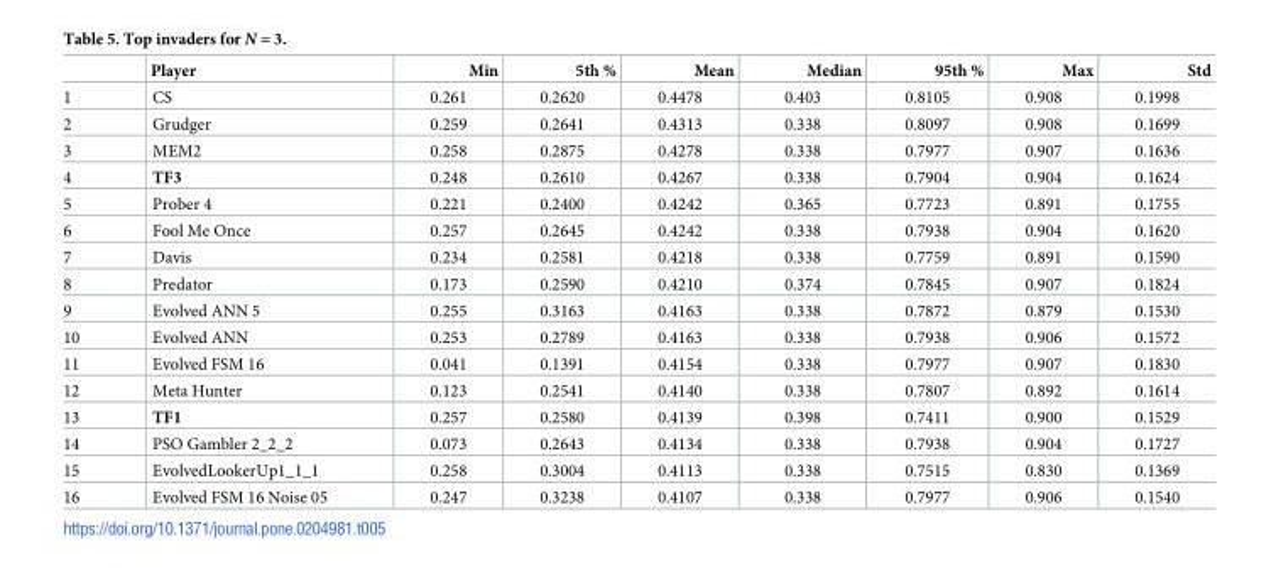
<table><thead><tr><td></td><td>Player</td><td>Min</td><td>5th %</td><td>Mean</td><td>Median</td><td>95th %</td><td>Max</td><td>Std</td></tr></thead><tbody><tr><td>1</td><td>CS</td><td>0.261</td><td>0.2620</td><td>0.4478</td><td>0.403</td><td>0.8105</td><td>0.908</td><td>0.1998</td></tr><tr><td>2</td><td>Grudger</td><td>0.259</td><td>0.2641</td><td>0.4313</td><td>0.338</td><td>0.8097</td><td>0.908</td><td>0.1699</td></tr><tr><td>3</td><td>MEM2</td><td>0.258</td><td>0.2875</td><td>0.4278</td><td>0.338</td><td>0.7977</td><td>0.907</td><td>0.1636</td></tr><tr><td>4</td><td>TF3</td><td>0.248</td><td>0.2610</td><td>0.4267</td><td>0.338</td><td>0.7904</td><td>0.904</td><td>0.1624</td></tr><tr><td>5</td><td>Prober 4</td><td>0.221</td><td>0.2400</td><td>0.4242</td><td>0.365</td><td>0.7723</td><td>0.891</td><td>0.1755</td></tr><tr><td>6</td><td>Fool Me Once</td><td>0.257</td><td>0.2645</td><td>0.4242</td><td>0.338</td><td>0.7938</td><td>0.904</td><td>0.1620</td></tr><tr><td>7</td><td>Davis</td><td>0.234</td><td>0.2581</td><td>0.4218</td><td>0.338</td><td>0.7759</td><td>0.891</td><td>0.1590</td></tr><tr><td>8</td><td>Predator</td><td>0.173</td><td>0.2590</td><td>0.4210</td><td>0.374</td><td>0.7845</td><td>0.907</td><td>0.1824</td></tr><tr><td>9</td><td>Evolved ANN 5</td><td>0.255</td><td>0.3163</td><td>0.4163</td><td>0.338</td><td>0.7872</td><td>0.879</td><td>0.1530</td></tr><tr><td>10</td><td>Evolved ANN</td><td>0.253</td><td>0.2789</td><td>0.4163</td><td>0.338</td><td>0.7938</td><td>0.906</td><td>0.1572</td></tr><tr><td>11</td><td>Evolved FSM 16</td><td>0.041</td><td>0.1391</td><td>0.4154</td><td>0.338</td><td>0.7977</td><td>0.907</td><td>0.1830</td></tr><tr><td>12</td><td>Meta Hunter</td><td>0.123</td><td>0.2541</td><td>0.4140</td><td>0.338</td><td>0.7807</td><td>0.892</td><td>0.1614</td></tr><tr><td>13</td><td>TF1</td><td>0.257</td><td>0.2580</td><td>0.4139</td><td>0.398</td><td>0.7411</td><td>0.900</td><td>0.1529</td></tr><tr><td>14</td><td>PSO Gambler 2_2_2</td><td>0.073</td><td>0.2643</td><td>0.4134</td><td>0.338</td><td>0.7938</td><td>0.904</td><td>0.1727</td></tr><tr><td>15</td><td>EvolvedLookerUp1_1_1</td><td>0.258</td><td>0.3004</td><td>0.4113</td><td>0.338</td><td>0.7515</td><td>0.830</td><td>0.1369</td></tr><tr><td>16</td><td>Evolved FSM 16 Noise 05</td><td>0.247</td><td>0.3238</td><td>0.4107</td><td>0.338</td><td>0.7977</td><td>0.906</td><td>0.1540</td></tr></tbody></table>